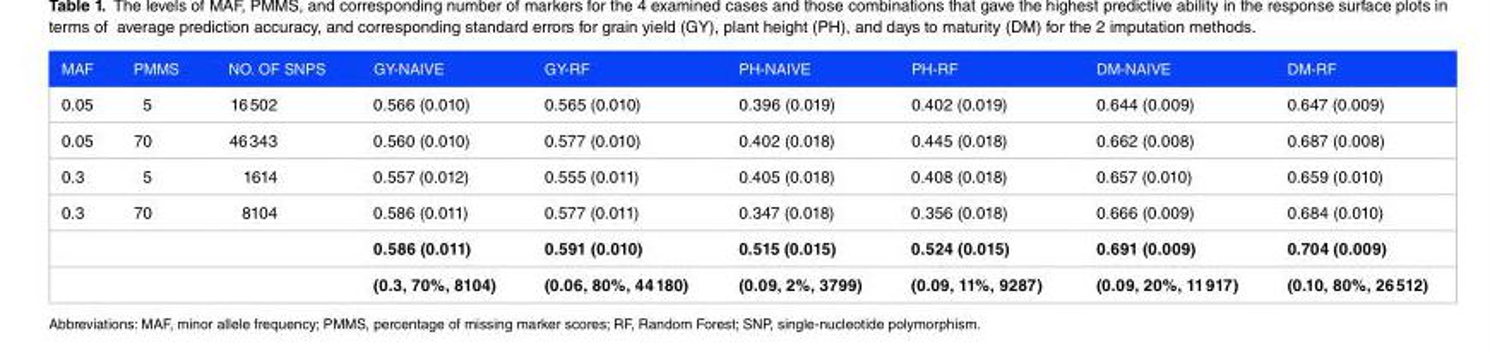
<table><thead><tr><td>MAF</td><td>PMMS</td><td>No. oF SNPS</td><td>GY-NAIVE</td><td>GY-RF</td><td>PH-NAIVE</td><td>PH-RF</td><td>DM-NAIVE</td><td>DM-RF</td></tr></thead><tbody><tr><td>0.05</td><td>5</td><td>16 502</td><td>0.566 (0.010)</td><td>0.565 (0.010)</td><td>0.396 (0.019)</td><td>0.402 (0.019)</td><td>0.644 (0.009)</td><td>0.647 (0.009)</td></tr><tr><td>0.05</td><td>70</td><td>46 343</td><td>0.560 (0.010)</td><td>0.577 (0.010)</td><td>0.402 (0.018)</td><td>0.445 (0.018)</td><td>0.662 (0.008)</td><td>0.687 (0.008)</td></tr><tr><td>0.3</td><td>5</td><td>1614</td><td>0.557 (0.012)</td><td>0.555 (0.011)</td><td>0.405 (0.018)</td><td>0.408 (0.018)</td><td>0.657 (0.010)</td><td>0.659 (0.010)</td></tr><tr><td rowspan="3">0.3</td><td>70</td><td>8104</td><td>0.586 (0.011)</td><td>0.577 (0.011)</td><td>0.347 (0.018)</td><td>0.356 (0.018)</td><td>0.666 (0.009)</td><td>0.684 (0.010)</td></tr><tr><td></td><td></td><td>0.586 (0.011)</td><td>0.591 (0.010)</td><td>0.515 (0.015)</td><td>0.524 (0.015)</td><td>0.691 (0.009)</td><td>0.704 (0.009)</td></tr><tr><td></td><td></td><td>(0.3, 70%, 8104)</td><td>(0.06, 80%, 44 180)</td><td>(0.09, 2%, 3799)</td><td>(0.09, 11%, 9287)</td><td>(0.09, 20%, 11 917)</td><td>(0.10, 80%, 26 512)</td></tr></tbody></table>